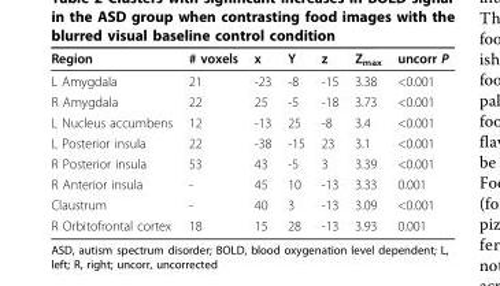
<table><thead><tr><td>Region</td><td># voxels</td><td>x</td><td>Y</td><td>z</td><td>Z<sub>max</sub></td><td>uncorr P</td></tr></thead><tbody><tr><td>L Amygdala</td><td>21</td><td>-23</td><td>-8</td><td>-15</td><td>3.38</td><td>&lt;0.001</td></tr><tr><td>R Amygdala</td><td>22</td><td>25</td><td>-5</td><td>-18</td><td>3.73</td><td>&lt;0.001</td></tr><tr><td>L Nucleus accumbens</td><td>12</td><td>-13</td><td>25</td><td>-8</td><td>3.4</td><td>&lt;0.001</td></tr><tr><td>L Posterior insula</td><td>22</td><td>-38</td><td>-15</td><td>23</td><td>3.1</td><td>&lt;0.001</td></tr><tr><td>R Posterior insula</td><td>53</td><td>43</td><td>-5</td><td>3</td><td>3.39</td><td>&lt;0.001</td></tr><tr><td>R Anterior insula</td><td>-</td><td>45</td><td>10</td><td>-13</td><td>3.33</td><td>0.001</td></tr><tr><td>Claustrum</td><td>-</td><td>40</td><td>3</td><td>-13</td><td>3.09</td><td>&lt;0.001</td></tr><tr><td>R Orbitofrontal cortex</td><td>18</td><td>15</td><td>28</td><td>-13</td><td>3.93</td><td>0.001</td></tr></tbody></table>